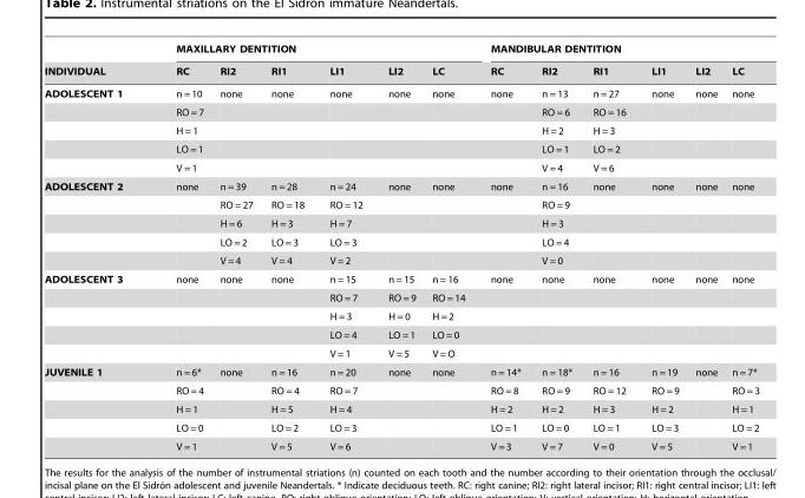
<table><thead><tr><td rowspan="2">INDIVIDUAL</td><td colspan="6">MAXILLARY DENTITION</td><td colspan="6">MANDIBULAR DENTITION</td></tr><tr><td>RC</td><td>RI2</td><td>RI1</td><td>LI1</td><td>LI2</td><td>LC</td><td>RC</td><td>RI2</td><td>RI1</td><td>LI1</td><td>LI2</td><td>LC</td></tr></thead><tbody><tr><td rowspan="5">ADOLESCENT 1</td><td>n = 10</td><td>none</td><td>none</td><td>none</td><td>none</td><td>none</td><td>none</td><td>n = 13</td><td>n = 27</td><td>none</td><td>none</td><td>none</td></tr><tr><td>RO = 7</td><td></td><td></td><td></td><td></td><td></td><td></td><td>RO = 6</td><td>RO = 16</td><td></td><td></td><td></td></tr><tr><td>H = 1</td><td></td><td></td><td></td><td></td><td></td><td></td><td>H = 2</td><td>H = 3</td><td></td><td></td><td></td></tr><tr><td>LO = 1</td><td></td><td></td><td></td><td></td><td></td><td></td><td>LO = 1</td><td>LO = 2</td><td></td><td></td><td></td></tr><tr><td>V = 1</td><td></td><td></td><td></td><td></td><td></td><td></td><td>V = 4</td><td>V = 6</td><td></td><td></td><td></td></tr><tr><td rowspan="5">ADOLESCENT 2</td><td>none</td><td>n = 39</td><td>n = 28</td><td>n = 24</td><td>none</td><td>none</td><td>none</td><td>n = 16</td><td>none</td><td>none</td><td>none</td><td>none</td></tr><tr><td></td><td>RO = 27</td><td>RO = 18</td><td>RO = 12</td><td></td><td></td><td></td><td>RO = 9</td><td></td><td></td><td></td><td></td></tr><tr><td></td><td>H = 6</td><td>H = 3</td><td>H = 7</td><td></td><td></td><td></td><td>H = 3</td><td></td><td></td><td></td><td></td></tr><tr><td></td><td>LO = 2</td><td>LO = 3</td><td>LO = 3</td><td></td><td></td><td></td><td>LO = 4</td><td></td><td></td><td></td><td></td></tr><tr><td></td><td>V = 4</td><td>V = 4</td><td>V = 2</td><td></td><td></td><td></td><td>V = 0</td><td></td><td></td><td></td><td></td></tr><tr><td rowspan="5">ADOLESCENT 3</td><td>none</td><td>none</td><td>none</td><td>n = 15</td><td>n = 15</td><td>n = 16</td><td>none</td><td>none</td><td>none</td><td>none</td><td>none</td><td>none</td></tr><tr><td></td><td></td><td></td><td>RO = 7</td><td>RO = 9</td><td>RO = 14</td><td></td><td></td><td></td><td></td><td></td><td></td></tr><tr><td></td><td></td><td></td><td>H = 3</td><td>H = 0</td><td>H = 2</td><td></td><td></td><td></td><td></td><td></td><td></td></tr><tr><td></td><td></td><td></td><td>LO = 4</td><td>LO = 1</td><td>LO = 0</td><td></td><td></td><td></td><td></td><td></td><td></td></tr><tr><td></td><td></td><td></td><td>V = 1</td><td>V = 5</td><td>V = O</td><td></td><td></td><td></td><td></td><td></td><td></td></tr><tr><td rowspan="5">JUVENILE 1</td><td>n = 6*</td><td>none</td><td>n = 16</td><td>n = 20</td><td>none</td><td>none</td><td>n = 14*</td><td>n = 18*</td><td>n = 16</td><td>n = 19</td><td>none</td><td>n = 7*</td></tr><tr><td>RO = 4</td><td></td><td>RO = 4</td><td>RO = 7</td><td></td><td></td><td>RO = 8</td><td>RO = 9</td><td>RO = 12</td><td>RO = 9</td><td></td><td>RO = 3</td></tr><tr><td>H = 1</td><td></td><td>H = 5</td><td>H = 4</td><td></td><td></td><td>H = 2</td><td>H = 2</td><td>H = 3</td><td>H = 2</td><td></td><td>H = 1</td></tr><tr><td>LO = 0</td><td></td><td>LO = 2</td><td>LO = 3</td><td></td><td></td><td>LO = 1</td><td>LO = 0</td><td>LO = 1</td><td>LO = 3</td><td></td><td>LO = 2</td></tr><tr><td>V = 1</td><td></td><td>V = 5</td><td>V = 6</td><td></td><td></td><td>V = 3</td><td>V = 7</td><td>V = 0</td><td>V = 5</td><td></td><td>V = 1</td></tr></tbody></table>